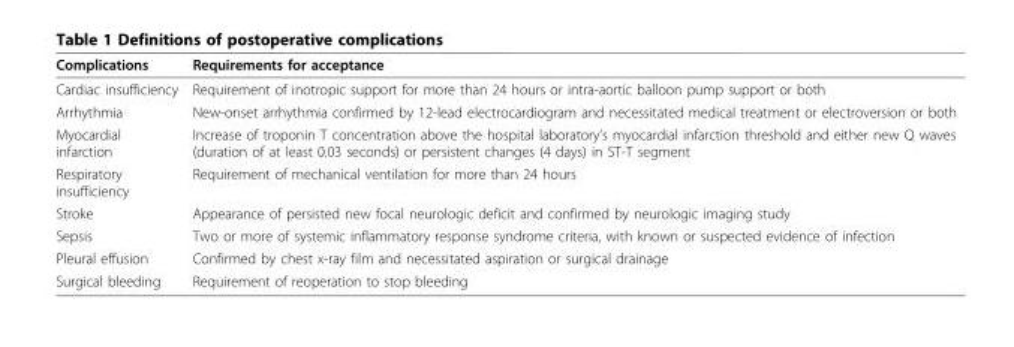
<table><thead><tr><td>Complications</td><td>Requirements for acceptance</td></tr></thead><tbody><tr><td>Cardiac insufficiency</td><td>Requirement of inotropic support for more than 24 hours or intra-aortic balloon pump support or both</td></tr><tr><td>Arrhythmia</td><td>New-onset arrhythmia confirmed by 12-lead electrocardiogram and necessitated medical treatment or electroversion or both</td></tr><tr><td>Myocardial infarction</td><td>Increase of troponin T concentration above the hospital laboratory’s myocardial infarction threshold and either new Q waves (duration of at least 0.03 seconds) or persistent changes (4 days) in ST-T segment</td></tr><tr><td>Respiratory insufficiency</td><td>Requirement of mechanical ventilation for more than 24 hours</td></tr><tr><td>Stroke</td><td>Appearance of persisted new focal neurologic deficit and confirmed by neurologic imaging study</td></tr><tr><td>Sepsis</td><td>Two or more of systemic inflammatory response syndrome criteria, with known or suspected evidence of infection</td></tr><tr><td>Pleural effusion</td><td>Confirmed by chest x-ray film and necessitated aspiration or surgical drainage</td></tr><tr><td>Surgical bleeding</td><td>Requirement of reoperation to stop bleeding</td></tr></tbody></table>